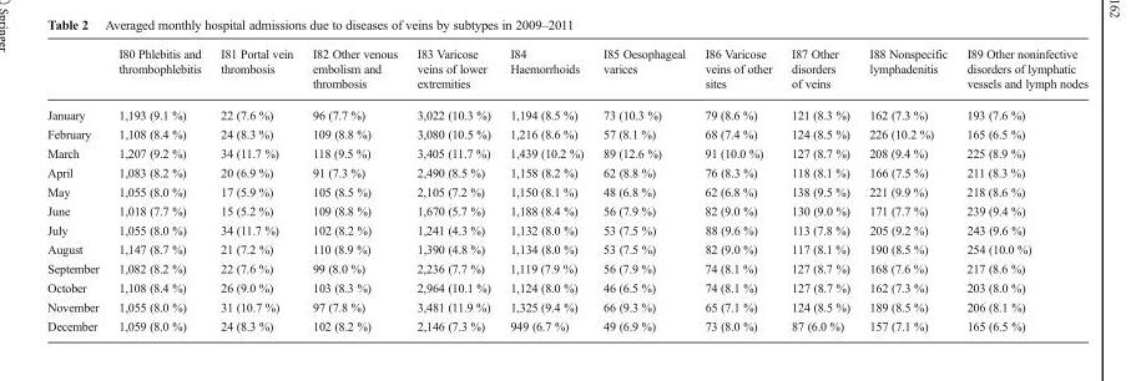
<table><thead><tr><td></td><td>I80 Phlebitis and thrombophlebitis</td><td>I81 Portal vein thrombosis</td><td>I82 Other venous embolism and thrombosis</td><td>I83 Varicose veins of lower extremities</td><td>I84 Haemorrhoids</td><td>I85 Oesophageal varices</td><td>I86 Varicose veins of other sites</td><td>I87 Other disorders of veins</td><td>I88 Nonspecific lymphadenitis</td><td>I89 Other noninfective disorders of lymphatic vessels and lymph nodes</td></tr></thead><tbody><tr><td>January</td><td>1,193 (9.1 %)</td><td>22 (7.6 %)</td><td>96 (7.7 %)</td><td>3,022 (10.3 %)</td><td>1,194 (8.5 %)</td><td>73 (10.3 %)</td><td>79 (8.6 %)</td><td>121 (8.3 %)</td><td>162 (7.3 %)</td><td>193 (7.6 %)</td></tr><tr><td>February</td><td>1,108 (8.4 %)</td><td>24 (8.3 %)</td><td>109 (8.8 %)</td><td>3,080 (10.5 %)</td><td>1,216 (8.6 %)</td><td>57 (8.1 %)</td><td>68 (7.4 %)</td><td>124 (8.5 %)</td><td>226 (10.2 %)</td><td>165 (6.5 %)</td></tr><tr><td>March</td><td>1,207 (9.2 %)</td><td>34 (11.7 %)</td><td>118 (9.5 %)</td><td>3,405 (11.7 %)</td><td>1,439 (10.2 %)</td><td>89 (12.6 %)</td><td>91 (10.0 %)</td><td>127 (8.7 %)</td><td>208 (9.4 %)</td><td>225 (8.9 %)</td></tr><tr><td>April</td><td>1,083 (8.2 %)</td><td>20 (6.9 %)</td><td>91 (7.3 %)</td><td>2,490 (8.5 %)</td><td>1,158 (8.2 %)</td><td>62 (8.8 %)</td><td>76 (8.3 %)</td><td>118 (8.1 %)</td><td>166 (7.5 %)</td><td>211 (8.3 %)</td></tr><tr><td>May</td><td>1,055 (8.0 %)</td><td>17 (5.9 %)</td><td>105 (8.5 %)</td><td>2,105 (7.2 %)</td><td>1,150 (8.1 %)</td><td>48 (6.8 %)</td><td>62 (6.8 %)</td><td>138 (9.5 %)</td><td>221 (9.9 %)</td><td>218 (8.6 %)</td></tr><tr><td>June</td><td>1,018 (7.7 %)</td><td>15 (5.2 %)</td><td>109 (8.8 %)</td><td>1,670 (5.7 %)</td><td>1,188 (8.4 %)</td><td>56 (7.9 %)</td><td>82 (9.0 %)</td><td>130 (9.0 %)</td><td>171 (7.7 %)</td><td>239 (9.4 %)</td></tr><tr><td>July</td><td>1,055 (8.0 %)</td><td>34 (11.7 %)</td><td>102 (8.2 %)</td><td>1,241 (4.3 %)</td><td>1,132 (8.0 %)</td><td>53 (7.5 %)</td><td>88 (9.6 %)</td><td>113 (7.8 %)</td><td>205 (9.2 %)</td><td>243 (9.6 %)</td></tr><tr><td>August</td><td>1,147 (8.7 %)</td><td>21 (7.2 %)</td><td>110 (8.9 %)</td><td>1,390 (4.8 %)</td><td>1,134 (8.0 %)</td><td>53 (7.5 %)</td><td>82 (9.0 %)</td><td>117 (8.1 %)</td><td>190 (8.5 %)</td><td>254 (10.0 %)</td></tr><tr><td>September</td><td>1,082 (8.2 %)</td><td>22 (7.6 %)</td><td>99 (8.0 %)</td><td>2,236 (7.7 %)</td><td>1,119 (7.9 %)</td><td>56 (7.9 %)</td><td>74 (8.1 %)</td><td>127 (8.7 %)</td><td>168 (7.6 %)</td><td>217 (8.6 %)</td></tr><tr><td>October</td><td>1,108 (8.4 %)</td><td>26 (9.0 %)</td><td>103 (8.3 %)</td><td>2,964 (10.1 %)</td><td>1,124 (8.0 %)</td><td>46 (6.5 %)</td><td>74 (8.1 %)</td><td>127 (8.7 %)</td><td>162 (7.3 %)</td><td>203 (8.0 %)</td></tr><tr><td>November</td><td>1,055 (8.0 %)</td><td>31 (10.7 %)</td><td>97 (7.8 %)</td><td>3,481 (11.9 %)</td><td>1,325 (9.4 %)</td><td>66 (9.3 %)</td><td>65 (7.1 %)</td><td>124 (8.5 %)</td><td>189 (8.5 %)</td><td>206 (8.1 %)</td></tr><tr><td>December</td><td>1,059 (8.0 %)</td><td>24 (8.3 %)</td><td>102 (8.2 %)</td><td>2,146 (7.3 %)</td><td>949 (6.7 %)</td><td>49 (6.9 %)</td><td>73 (8.0 %)</td><td>87 (6.0 %)</td><td>157 (7.1 %)</td><td>165 (6.5 %)</td></tr></tbody></table>